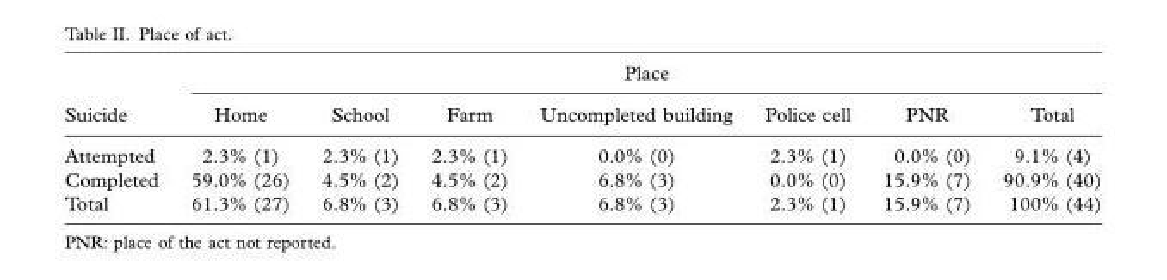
<table><thead><tr><td rowspan="2">Suicide</td><td colspan="7">Place</td></tr><tr><td>Home</td><td>School</td><td>Farm</td><td>Uncompleted building</td><td>Police cell</td><td>PNR</td><td>Total</td></tr></thead><tbody><tr><td>Attempted</td><td>2.3% (1)</td><td>2.3% (1)</td><td>2.3% (1)</td><td>0.0% (0)</td><td>2.3% (1)</td><td>0.0% (0)</td><td>9.1% (4)</td></tr><tr><td>Completed</td><td>59.0% (26)</td><td>4.5% (2)</td><td>4.5% (2)</td><td>6.8% (3)</td><td>0.0% (0)</td><td>15.9% (7)</td><td>90.9% (40)</td></tr><tr><td>Total</td><td>61.3% (27)</td><td>6.8% (3)</td><td>6.8% (3)</td><td>6.8% (3)</td><td>2.3% (1)</td><td>15.9% (7)</td><td>100% (44)</td></tr></tbody></table>